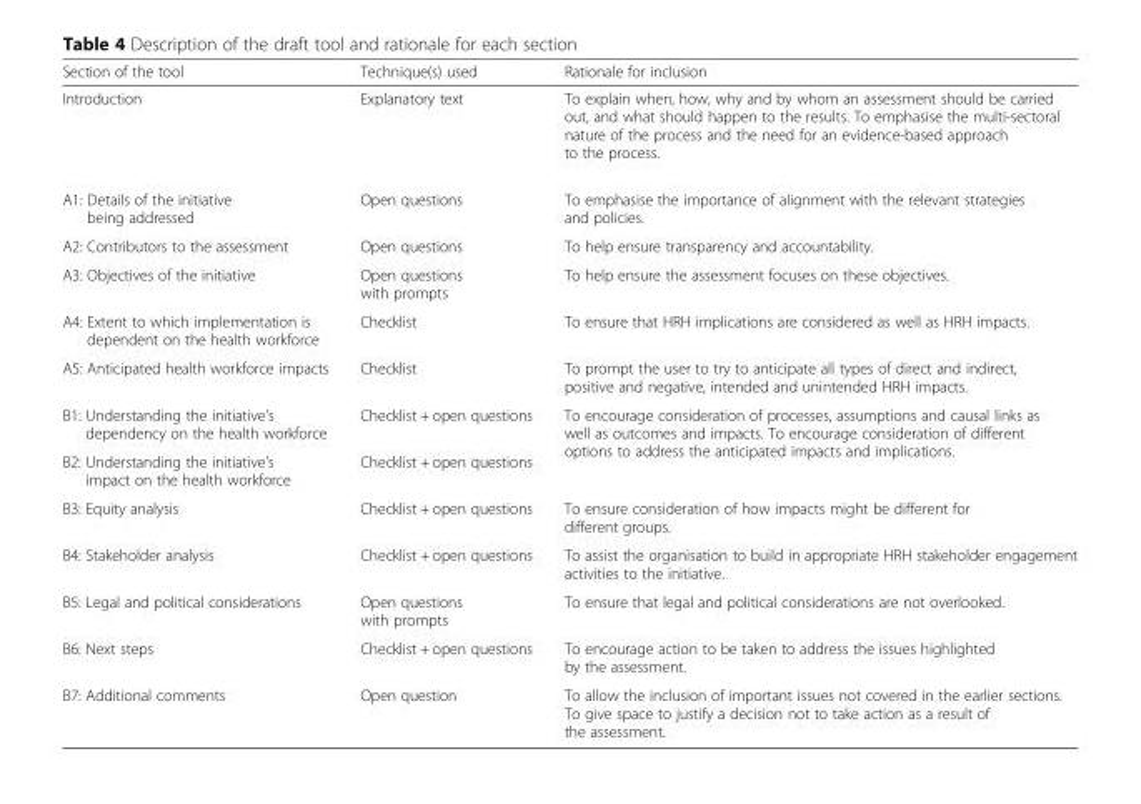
<table><thead><tr><td>Section of the tool</td><td>Technique(s) used</td><td>Rationale for inclusion</td></tr></thead><tbody><tr><td>Introduction</td><td>Explanatory text</td><td>To explain when, how, why and by whom an assessment should be carried out, and what should happen to the results. To emphasise the multi-sectoral nature of the process and the need for an evidence-based approach to the process.</td></tr><tr><td>A1: Details of the initiative being addressed</td><td>Open questions</td><td>To emphasise the importance of alignment with the relevant strategies and policies.</td></tr><tr><td>A2: Contributors to the assessment</td><td>Open questions</td><td>To help ensure transparency and accountability.</td></tr><tr><td>A3: Objectives of the initiative</td><td>Open questions with prompts</td><td>To help ensure the assessment focuses on these objectives.</td></tr><tr><td>A4: Extent to which implementation is dependent on the health workforce</td><td>Checklist</td><td>To ensure that HRH implications are considered as well as HRH impacts.</td></tr><tr><td>A5: Anticipated health workforce impacts</td><td>Checklist</td><td>To prompt the user to try to anticipate all types of direct and indirect, positive and negative, intended and unintended HRH impacts.</td></tr><tr><td>B1: Understanding the initiative’s dependency on the health workforce</td><td>Checklist + open questions</td><td rowspan="2">To encourage consideration of processes, assumptions and causal links as well as outcomes and impacts. To encourage consideration of different options to address the anticipated impacts and implications.</td></tr><tr><td>B2: Understanding the initiative’s impact on the health workforce</td><td>Checklist + open questions</td></tr><tr><td>B3: Equity analysis</td><td>Checklist + open questions</td><td>To ensure consideration of how impacts might be different for different groups.</td></tr><tr><td>B4: Stakeholder analysis</td><td>Checklist + open questions</td><td>To assist the organisation to build in appropriate HRH stakeholder engagement activities to the initiative.</td></tr><tr><td>B5: Legal and political considerations</td><td>Open questions with prompts</td><td>To ensure that legal and political considerations are not overlooked.</td></tr><tr><td>B6: Next steps</td><td>Checklist + open questions</td><td>To encourage action to be taken to address the issues highlighted by the assessment.</td></tr><tr><td>B7: Additional comments</td><td>Open question</td><td>To allow the inclusion of important issues not covered in the earlier sections. To give space to justify a decision not to take action as a result of the assessment.</td></tr></tbody></table>